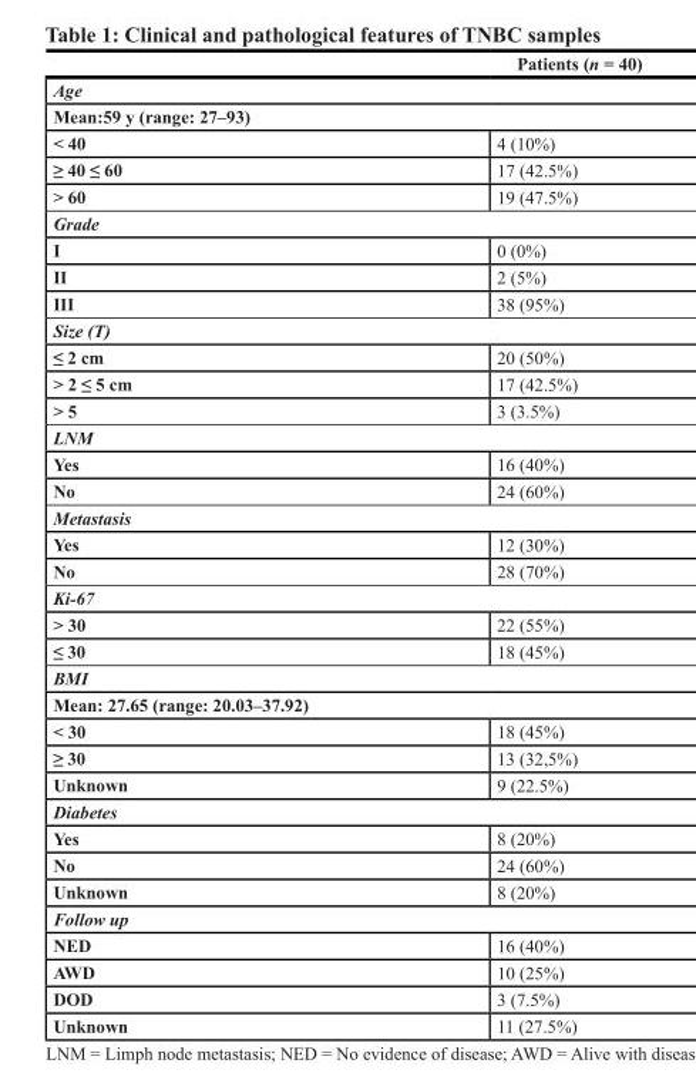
<table><thead><tr><td></td><td>Patients (n = 40)</td></tr></thead><tbody><tr><td colspan="2">Age</td></tr><tr><td colspan="2">Mean:59 y (range: 27–93)</td></tr><tr><td>&lt; 40</td><td>4 (10%)</td></tr><tr><td>≥ 40 ≤ 60</td><td>17 (42.5%)</td></tr><tr><td>&gt; 60</td><td>19 (47.5%)</td></tr><tr><td colspan="2">Grade</td></tr><tr><td>I</td><td>0 (0%)</td></tr><tr><td>II</td><td>2 (5%)</td></tr><tr><td>III</td><td>38 (95%)</td></tr><tr><td colspan="2">Size (T)</td></tr><tr><td>≤ 2 cm</td><td>20 (50%)</td></tr><tr><td>&gt; 2 ≤ 5 cm</td><td>17 (42.5%)</td></tr><tr><td>&gt; 5</td><td>3 (3.5%)</td></tr><tr><td colspan="2">LNM</td></tr><tr><td>Yes</td><td>16 (40%)</td></tr><tr><td>No</td><td>24 (60%)</td></tr><tr><td colspan="2">Metastasis</td></tr><tr><td>Yes</td><td>12 (30%)</td></tr><tr><td>No</td><td>28 (70%)</td></tr><tr><td colspan="2">Ki-67</td></tr><tr><td>&gt; 30</td><td>22 (55%)</td></tr><tr><td>≤ 30</td><td>18 (45%)</td></tr><tr><td colspan="2">BMI</td></tr><tr><td colspan="2">Mean: 27.65 (range: 20.03–37.92)</td></tr><tr><td>&lt; 30</td><td>18 (45%)</td></tr><tr><td>≥ 30</td><td>13 (32,5%)</td></tr><tr><td>Unknown</td><td>9 (22.5%)</td></tr><tr><td colspan="2">Diabetes</td></tr><tr><td>Yes</td><td>8 (20%)</td></tr><tr><td>No</td><td>24 (60%)</td></tr><tr><td>Unknown</td><td>8 (20%)</td></tr><tr><td colspan="2">Follow up</td></tr><tr><td>NED</td><td>16 (40%)</td></tr><tr><td>AWD</td><td>10 (25%)</td></tr><tr><td>DOD</td><td>3 (7.5%)</td></tr><tr><td>Unknown</td><td>11 (27.5%)</td></tr></tbody></table>